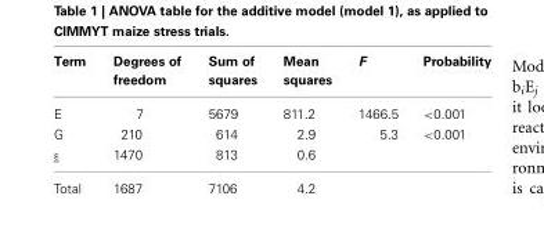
<table><thead><tr><td>Term</td><td>Degrees of freedom</td><td>Sum of squares</td><td>Mean squares</td><td>F</td><td>Probability</td></tr></thead><tbody><tr><td>E</td><td>7</td><td>5679</td><td>811.2</td><td>1466.5</td><td>&lt;0.001</td></tr><tr><td>G</td><td>210</td><td>614</td><td>2.9</td><td>5.3</td><td>&lt;0.001</td></tr><tr><td>ε</td><td>1470</td><td>813</td><td>0.6</td><td></td><td></td></tr><tr><td>Total</td><td>1687</td><td>7106</td><td>4.2</td><td></td><td></td></tr></tbody></table>